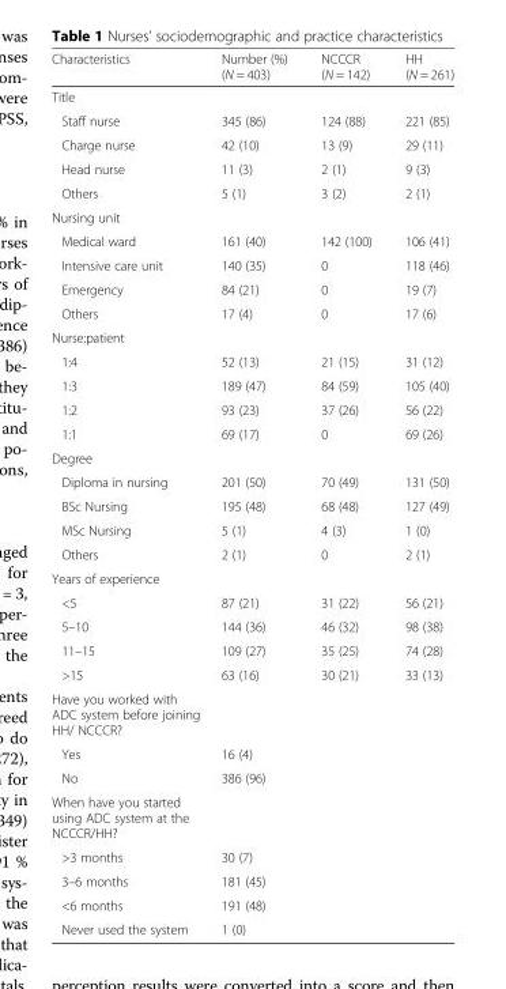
<table><thead><tr><td>Characteristics</td><td>Number (%) (N = 403)</td><td>NCCCR (N = 142)</td><td>HH (N = 261)</td></tr></thead><tbody><tr><td colspan="4">Title</td></tr><tr><td>Staff nurse</td><td>345 (86)</td><td>124 (88)</td><td>221 (85)</td></tr><tr><td>Charge nurse</td><td>42 (10)</td><td>13 (9)</td><td>29 (11)</td></tr><tr><td>Head nurse</td><td>11 (3)</td><td>2 (1)</td><td>9 (3)</td></tr><tr><td>Others</td><td>5 (1)</td><td>3 (2)</td><td>2 (1)</td></tr><tr><td colspan="4">Nursing unit</td></tr><tr><td>Medical ward</td><td>161 (40)</td><td>142 (100)</td><td>106 (41)</td></tr><tr><td>Intensive care unit</td><td>140 (35)</td><td>0</td><td>118 (46)</td></tr><tr><td>Emergency</td><td>84 (21)</td><td>0</td><td>19 (7)</td></tr><tr><td>Others</td><td>17 (4)</td><td>0</td><td>17 (6)</td></tr><tr><td colspan="4">Nurse:patient</td></tr><tr><td>1:4</td><td>52 (13)</td><td>21 (15)</td><td>31 (12)</td></tr><tr><td>1:3</td><td>189 (47)</td><td>84 (59)</td><td>105 (40)</td></tr><tr><td>1:2</td><td>93 (23)</td><td>37 (26)</td><td>56 (22)</td></tr><tr><td>1:1</td><td>69 (17)</td><td>0</td><td>69 (26)</td></tr><tr><td colspan="4">Degree</td></tr><tr><td>Diploma in nursing</td><td>201 (50)</td><td>70 (49)</td><td>131 (50)</td></tr><tr><td>BSc Nursing</td><td>195 (48)</td><td>68 (48)</td><td>127 (49)</td></tr><tr><td>MSc Nursing</td><td>5 (1)</td><td>4 (3)</td><td>1 (0)</td></tr><tr><td>Others</td><td>2 (1)</td><td>0</td><td>2 (1)</td></tr><tr><td colspan="4">Years of experience</td></tr><tr><td>&lt;5</td><td>87 (21)</td><td>31 (22)</td><td>56 (21)</td></tr><tr><td>5–10</td><td>144 (36)</td><td>46 (32)</td><td>98 (38)</td></tr><tr><td>11–15</td><td>109 (27)</td><td>35 (25)</td><td>74 (28)</td></tr><tr><td>&gt;15</td><td>63 (16)</td><td>30 (21)</td><td>33 (13)</td></tr><tr><td colspan="4">Have you worked with ADC system before joining HH/ NCCCR?</td></tr><tr><td>Yes</td><td>16 (4)</td><td></td><td></td></tr><tr><td>No</td><td>386 (96)</td><td></td><td></td></tr><tr><td colspan="4">When have you started using ADC system at the NCCCR/HH?</td></tr><tr><td>&gt;3 months</td><td>30 (7)</td><td></td><td></td></tr><tr><td>3–6 months</td><td>181 (45)</td><td></td><td></td></tr><tr><td>&lt;6 months</td><td>191 (48)</td><td></td><td></td></tr><tr><td>Never used the system</td><td>1 (0)</td><td></td><td></td></tr></tbody></table>